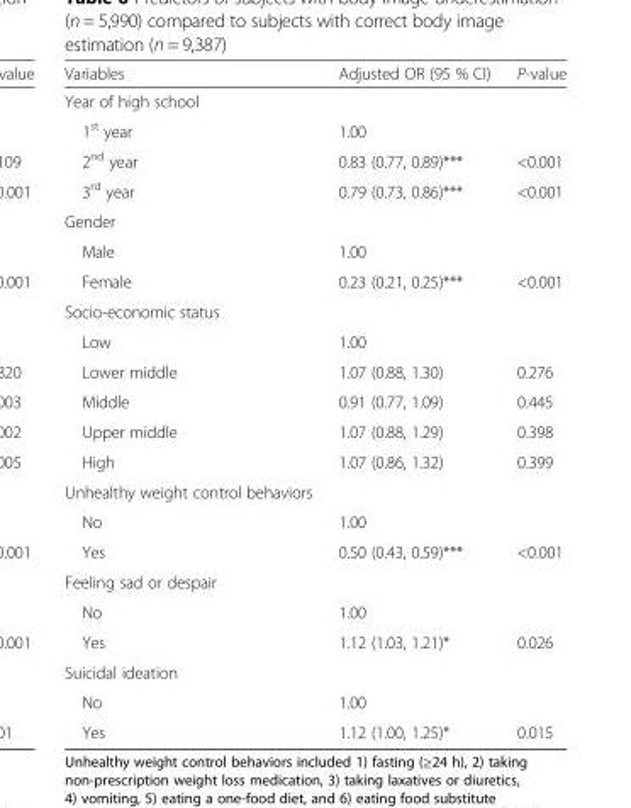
<table><thead><tr><td>Variables</td><td>Adjusted OR (95 % CI)</td><td>P-value</td></tr></thead><tbody><tr><td colspan="3">Year of high school</td></tr><tr><td>1<sup>st</sup> year</td><td>1.00</td><td></td></tr><tr><td>2<sup>nd</sup> year</td><td>0.83 (0.77, 0.89)***</td><td>&lt;0.001</td></tr><tr><td>3<sup>rd</sup> year</td><td>0.79 (0.73, 0.86)***</td><td>&lt;0.001</td></tr><tr><td colspan="3">Gender</td></tr><tr><td>Male</td><td>1.00</td><td></td></tr><tr><td>Female</td><td>0.23 (0.21, 0.25)***</td><td>&lt;0.001</td></tr><tr><td colspan="3">Socio-economic status</td></tr><tr><td>Low</td><td>1.00</td><td></td></tr><tr><td>Lower middle</td><td>1.07 (0.88, 1.30)</td><td>0.276</td></tr><tr><td>Middle</td><td>0.91 (0.77, 1.09)</td><td>0.445</td></tr><tr><td>Upper middle</td><td>1.07 (0.88, 1.29)</td><td>0.398</td></tr><tr><td>High</td><td>1.07 (0.86, 1.32)</td><td>0.399</td></tr><tr><td colspan="3">Unhealthy weight control behaviors</td></tr><tr><td>No</td><td>1.00</td><td></td></tr><tr><td>Yes</td><td>0.50 (0.43, 0.59)***</td><td>&lt;0.001</td></tr><tr><td colspan="3">Feeling sad or despair</td></tr><tr><td>No</td><td>1.00</td><td></td></tr><tr><td>Yes</td><td>1.12 (1.03, 1.21)*</td><td>0.026</td></tr><tr><td colspan="3">Suicidal ideation</td></tr><tr><td>No</td><td>1.00</td><td></td></tr><tr><td>Yes</td><td>1.12 (1.00, 1.25)*</td><td>0.015</td></tr></tbody></table>